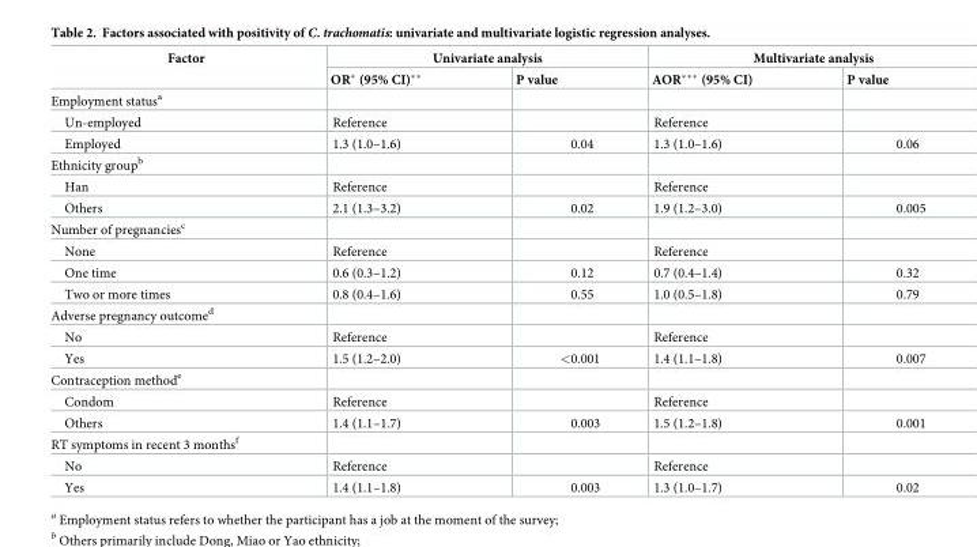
<table><thead><tr><td rowspan="2">Factor</td><td colspan="2">Univariate analysis</td><td colspan="2">Multivariate analysis</td></tr><tr><td>OR* (95% CI)**</td><td>P value</td><td>AOR*** (95% CI)</td><td>P value</td></tr></thead><tbody><tr><td colspan="5">Employment status<sup>a</sup></td></tr><tr><td>Un-employed</td><td>Reference</td><td></td><td>Reference</td><td></td></tr><tr><td>Employed</td><td>1.3 (1.0–1.6)</td><td>0.04</td><td>1.3 (1.0–1.6)</td><td>0.06</td></tr><tr><td colspan="5">Ethnicity group<sup>b</sup></td></tr><tr><td>Han</td><td>Reference</td><td></td><td>Reference</td><td></td></tr><tr><td>Others</td><td>2.1 (1.3–3.2)</td><td>0.02</td><td>1.9 (1.2–3.0)</td><td>0.005</td></tr><tr><td colspan="5">Number of pregnancies<sup>c</sup></td></tr><tr><td>None</td><td>Reference</td><td></td><td>Reference</td><td></td></tr><tr><td>One time</td><td>0.6 (0.3–1.2)</td><td>0.12</td><td>0.7 (0.4–1.4)</td><td>0.32</td></tr><tr><td>Two or more times</td><td>0.8 (0.4–1.6)</td><td>0.55</td><td>1.0 (0.5–1.8)</td><td>0.79</td></tr><tr><td colspan="5">Adverse pregnancy outcome<sup>d</sup></td></tr><tr><td>No</td><td>Reference</td><td></td><td>Reference</td><td></td></tr><tr><td>Yes</td><td>1.5 (1.2–2.0)</td><td>&lt;0.001</td><td>1.4 (1.1–1.8)</td><td>0.007</td></tr><tr><td colspan="5">Contraception method<sup>e</sup></td></tr><tr><td>Condom</td><td>Reference</td><td></td><td>Reference</td><td></td></tr><tr><td>Others</td><td>1.4 (1.1–1.7)</td><td>0.003</td><td>1.5 (1.2–1.8)</td><td>0.001</td></tr><tr><td colspan="5">RT symptoms in recent 3 months<sup>f</sup></td></tr><tr><td>No</td><td>Reference</td><td></td><td>Reference</td><td></td></tr><tr><td>Yes</td><td>1.4 (1.1–1.8)</td><td>0.003</td><td>1.3 (1.0–1.7)</td><td>0.02</td></tr></tbody></table>